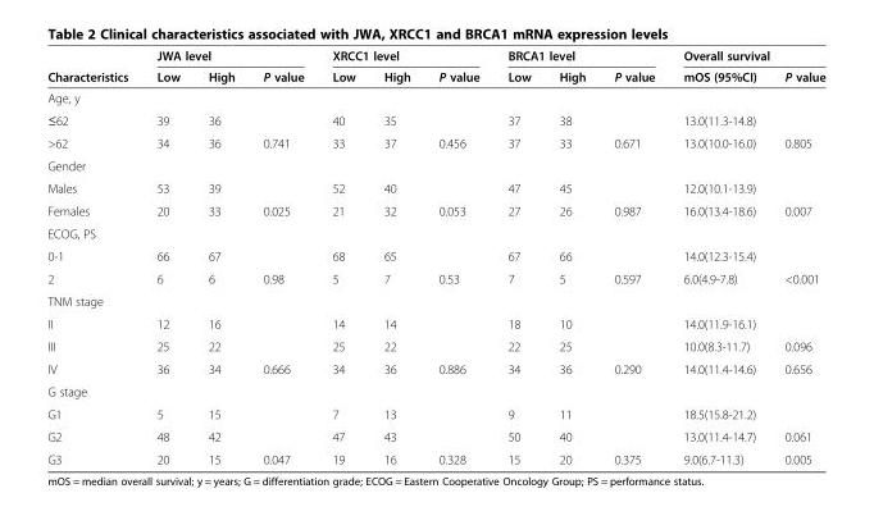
<table><thead><tr><td rowspan="2">Characteristics</td><td colspan="3">JWA level</td><td colspan="3">XRCC1 level</td><td colspan="3">BRCA1 level</td><td colspan="2">Overall survival</td></tr><tr><td>Low</td><td>High</td><td>P value</td><td>Low</td><td>High</td><td>P value</td><td>Low</td><td>High</td><td>P value</td><td>mOS (95%CI)</td><td>P value</td></tr></thead><tbody><tr><td colspan="12">Age, y</td></tr><tr><td>≤62</td><td>39</td><td>36</td><td></td><td>40</td><td>35</td><td></td><td>37</td><td>38</td><td></td><td>13.0(11.3-14.8)</td><td></td></tr><tr><td>&gt;62</td><td>34</td><td>36</td><td>0.741</td><td>33</td><td>37</td><td>0.456</td><td>37</td><td>33</td><td>0.671</td><td>13.0(10.0-16.0)</td><td>0.805</td></tr><tr><td colspan="12">Gender</td></tr><tr><td>Males</td><td>53</td><td>39</td><td></td><td>52</td><td>40</td><td></td><td>47</td><td>45</td><td></td><td>12.0(10.1-13.9)</td><td></td></tr><tr><td>Females</td><td>20</td><td>33</td><td>0.025</td><td>21</td><td>32</td><td>0.053</td><td>27</td><td>26</td><td>0.987</td><td>16.0(13.4-18.6)</td><td>0.007</td></tr><tr><td colspan="12">ECOG, PS</td></tr><tr><td>0-1</td><td>66</td><td>67</td><td></td><td>68</td><td>65</td><td></td><td>67</td><td>66</td><td></td><td>14.0(12.3-15.4)</td><td></td></tr><tr><td>2</td><td>6</td><td>6</td><td>0.98</td><td>5</td><td>7</td><td>0.53</td><td>7</td><td>5</td><td>0.597</td><td>6.0(4.9-7.8)</td><td>&lt;0.001</td></tr><tr><td colspan="12">TNM stage</td></tr><tr><td>II</td><td>12</td><td>16</td><td></td><td>14</td><td>14</td><td></td><td>18</td><td>10</td><td></td><td>14.0(11.9-16.1)</td><td></td></tr><tr><td>III</td><td>25</td><td>22</td><td></td><td>25</td><td>22</td><td></td><td>22</td><td>25</td><td></td><td>10.0(8.3-11.7)</td><td>0.096</td></tr><tr><td>IV</td><td>36</td><td>34</td><td>0.666</td><td>34</td><td>36</td><td>0.886</td><td>34</td><td>36</td><td>0.290</td><td>14.0(11.4-14.6)</td><td>0.656</td></tr><tr><td colspan="12">G stage</td></tr><tr><td>G1</td><td>5</td><td>15</td><td></td><td>7</td><td>13</td><td></td><td>9</td><td>11</td><td></td><td>18.5(15.8-21.2)</td><td></td></tr><tr><td>G2</td><td>48</td><td>42</td><td></td><td>47</td><td>43</td><td></td><td>50</td><td>40</td><td></td><td>13.0(11.4-14.7)</td><td>0.061</td></tr><tr><td>G3</td><td>20</td><td>15</td><td>0.047</td><td>19</td><td>16</td><td>0.328</td><td>15</td><td>20</td><td>0.375</td><td>9.0(6.7-11.3)</td><td>0.005</td></tr></tbody></table>